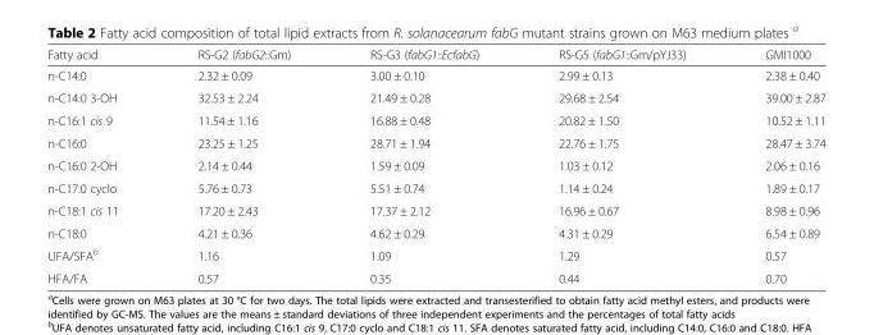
<table><thead><tr><td>Fatty acid</td><td>RS-G2 (fabG2::Gm)</td><td>RS-G3 (fabG1::EcfabG)</td><td>RS-G5 (fabG1::Gm/pYJ33)</td><td>GMI1000</td></tr></thead><tbody><tr><td>n-C14:0</td><td>2.32 ± 0.09</td><td>3.00 ± 0.10</td><td>2.99 ± 0.13</td><td>2.38 ± 0.40</td></tr><tr><td>n-C14:0 3-OH</td><td>32.53 ± 2.24</td><td>21.49 ± 0.28</td><td>29.68 ± 2.54</td><td>39.00 ± 2.87</td></tr><tr><td>n-C16:1 cis 9</td><td>11.54 ± 1.16</td><td>16.88 ± 0.48</td><td>20.82 ± 1.50</td><td>10.52 ± 1.11</td></tr><tr><td>n-C16:0</td><td>23.25 ± 1.25</td><td>28.71 ± 1.94</td><td>22.76 ± 1.75</td><td>28.47 ± 3.74</td></tr><tr><td>n-C16:0 2-OH</td><td>2.14 ± 0.44</td><td>1.59 ± 0.09</td><td>1.03 ± 0.12</td><td>2.06 ± 0.16</td></tr><tr><td>n-C17:0 cyclo</td><td>5.76 ± 0.73</td><td>5.51 ± 0.74</td><td>1.14 ± 0.24</td><td>1.89 ± 0.17</td></tr><tr><td>n-C18:1 cis 11</td><td>17.20 ± 2.43</td><td>17.37 ± 2.12</td><td>16.96 ± 0.67</td><td>8.98 ± 0.96</td></tr><tr><td>n-C18:0</td><td>4.21 ± 0.36</td><td>4.62 ± 0.29</td><td>4.31 ± 0.29</td><td>6.54 ± 0.89</td></tr><tr><td>UFA/SFA<sup>b</sup></td><td>1.16</td><td>1.09</td><td>1.29</td><td>0.57</td></tr><tr><td>HFA/FA</td><td>0.57</td><td>0.35</td><td>0.44</td><td>0.70</td></tr></tbody></table>